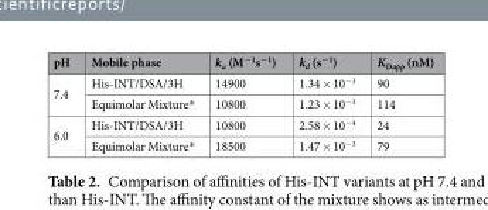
<table><thead><tr><td>pH</td><td>Mobile phase</td><td>k<sub>a</sub> (M<sup>-1</sup>s<sup>-1</sup>)</td><td>k<sub>d</sub> (s<sup>-1</sup>)</td><td>K<sub>Dapp</sub> (nM)</td></tr></thead><tbody><tr><td rowspan="2">7.4</td><td>His-INT/DSA/3H</td><td>14900</td><td>1.34 × 10<sup>−3</sup></td><td>90</td></tr><tr><td>Equimolar Mixture*</td><td>10800</td><td>1.23 × 10<sup>−3</sup></td><td>114</td></tr><tr><td rowspan="2">6.0</td><td>His-INT/DSA/3H</td><td>10800</td><td>2.58 × 10<sup>−4</sup></td><td>24</td></tr><tr><td>Equimolar Mixture*</td><td>18500</td><td>1.47 × 10<sup>−3</sup></td><td>79</td></tr></tbody></table>